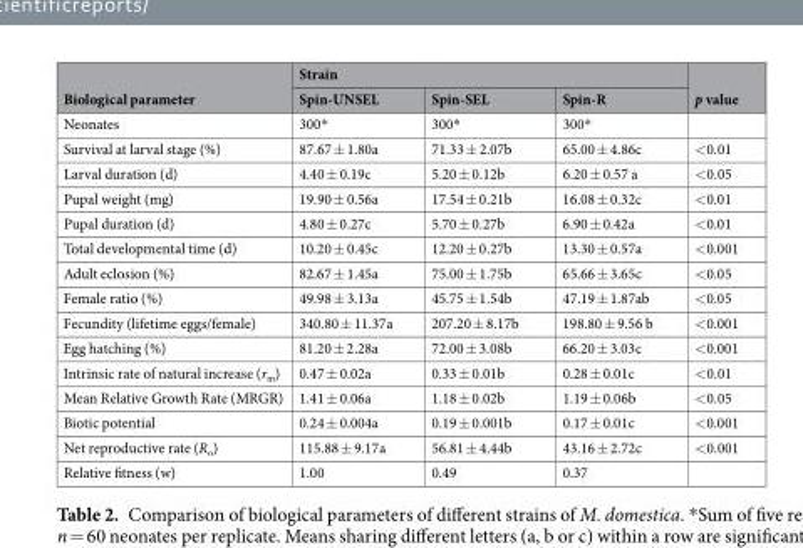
<table><thead><tr><td rowspan="2">Biological parameter</td><td colspan="3">Strain</td><td rowspan="2">p value</td></tr><tr><td>Spin-UNSEL</td><td>Spin-SEL</td><td>Spin-R</td></tr></thead><tbody><tr><td>Neonates</td><td>300*</td><td>300*</td><td>300*</td><td></td></tr><tr><td>Survival at larval stage (%)</td><td>87.67 ± 1.80a</td><td>71.33 ± 2.07b</td><td>65.00 ± 4.86c</td><td>&lt;0.01</td></tr><tr><td>Larval duration (d)</td><td>4.40 ± 0.19c</td><td>5.20 ± 0.12b</td><td>6.20 ± 0.57 a</td><td>&lt;0.05</td></tr><tr><td>Pupal weight (mg)</td><td>19.90 ± 0.56a</td><td>17.54 ± 0.21b</td><td>16.08 ± 0.32c</td><td>&lt;0.01</td></tr><tr><td>Pupal duration (d)</td><td>4.80 ± 0.27c</td><td>5.70 ± 0.27b</td><td>6.90 ± 0.42a</td><td>&lt;0.01</td></tr><tr><td>Total developmental time (d)</td><td>10.20 ± 0.45c</td><td>12.20 ± 0.27b</td><td>13.30 ± 0.57a</td><td>&lt;0.001</td></tr><tr><td>Adult eclosion (%)</td><td>82.67 ± 1.45a</td><td>75.00 ± 1.75b</td><td>65.66 ± 3.65c</td><td>&lt;0.05</td></tr><tr><td>Female ratio (%)</td><td>49.98 ± 3.13a</td><td>45.75 ± 1.54b</td><td>47.19 ± 1.87ab</td><td>&lt;0.05</td></tr><tr><td>Fecundity (lifetime eggs/female)</td><td>340.80 ± 11.37a</td><td>207.20 ± 8.17b</td><td>198.80 ± 9.56 b</td><td>&lt;0.001</td></tr><tr><td>Egg hatching (%)</td><td>81.20 ± 2.28a</td><td>72.00 ± 3.08b</td><td>66.20 ± 3.03c</td><td>&lt;0.001</td></tr><tr><td>Intrinsic rate of natural increase (r<sub>m</sub>)</td><td>0.47 ± 0.02a</td><td>0.33 ± 0.01b</td><td>0.28 ± 0.01c</td><td>&lt;0.01</td></tr><tr><td>Mean Relative Growth Rate (MRGR)</td><td>1.41 ± 0.06a</td><td>1.18 ± 0.02b</td><td>1.19 ± 0.06b</td><td>&lt;0.05</td></tr><tr><td>Biotic potential</td><td>0.24 ± 0.004a</td><td>0.19 ± 0.001b</td><td>0.17 ± 0.01c</td><td>&lt;0.001</td></tr><tr><td>Net reproductive rate (R<sub>o</sub>)</td><td>115.88 ± 9.17a</td><td>56.81 ± 4.44b</td><td>43.16 ± 2.72c</td><td>&lt;0.001</td></tr><tr><td>Relative fitness (w)</td><td>1.00</td><td>0.49</td><td>0.37</td><td></td></tr></tbody></table>